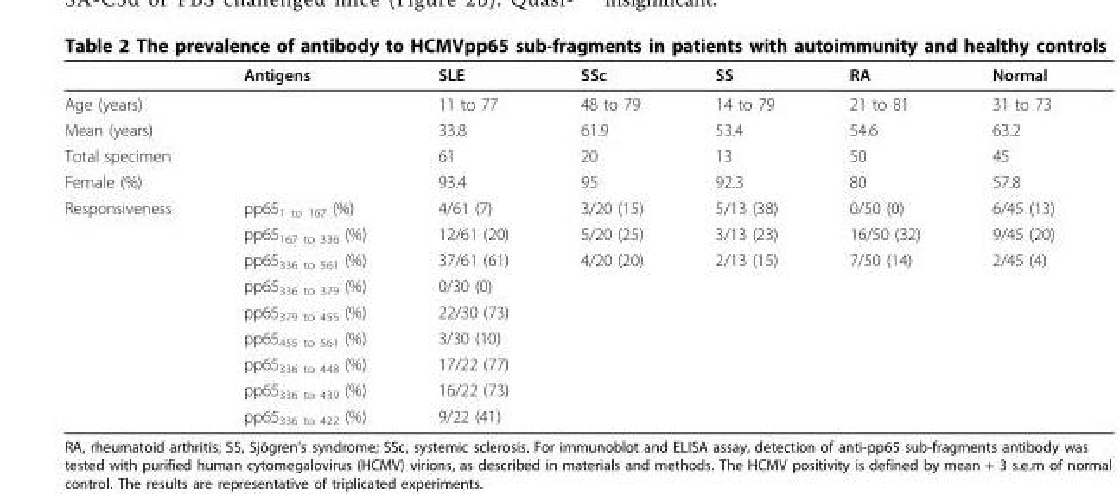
<table><thead><tr><td></td><td>Antigens</td><td>SLE</td><td>SSc</td><td>SS</td><td>RA</td><td>Normal</td></tr></thead><tbody><tr><td>Age (years)</td><td></td><td>11 to 77</td><td>48 to 79</td><td>14 to 79</td><td>21 to 81</td><td>31 to 73</td></tr><tr><td>Mean (years)</td><td></td><td>33.8</td><td>61.9</td><td>53.4</td><td>54.6</td><td>63.2</td></tr><tr><td>Total specimen</td><td></td><td>61</td><td>20</td><td>13</td><td>50</td><td>45</td></tr><tr><td>Female (%)</td><td></td><td>93.4</td><td>95</td><td>92.3</td><td>80</td><td>57.8</td></tr><tr><td rowspan="9">Responsiveness</td><td>pp65<sub>1 to 167</sub> (%)</td><td>4/61 (7)</td><td>3/20 (15)</td><td>5/13 (38)</td><td>0/50 (0)</td><td>6/45 (13)</td></tr><tr><td>pp65<sub>167 to 336</sub> (%)</td><td>12/61 (20)</td><td>5/20 (25)</td><td>3/13 (23)</td><td>16/50 (32)</td><td>9/45 (20)</td></tr><tr><td>pp65<sub>336 to 561</sub> (%)</td><td>37/61 (61)</td><td>4/20 (20)</td><td>2/13 (15)</td><td>7/50 (14)</td><td>2/45 (4)</td></tr><tr><td>pp65<sub>336 to 379</sub> (%)</td><td>0/30 (0)</td><td></td><td></td><td></td><td></td></tr><tr><td>pp65<sub>379 to 455</sub> (%)</td><td>22/30 (73)</td><td></td><td></td><td></td><td></td></tr><tr><td>pp65<sub>455 to 561</sub> (%)</td><td>3/30 (10)</td><td></td><td></td><td></td><td></td></tr><tr><td>pp65<sub>336 to 448</sub> (%)</td><td>17/22 (77)</td><td></td><td></td><td></td><td></td></tr><tr><td>pp65<sub>336 to 439</sub> (%)</td><td>16/22 (73)</td><td></td><td></td><td></td><td></td></tr><tr><td>pp65<sub>336 to 422</sub> (%)</td><td>9/22 (41)</td><td></td><td></td><td></td><td></td></tr></tbody></table>